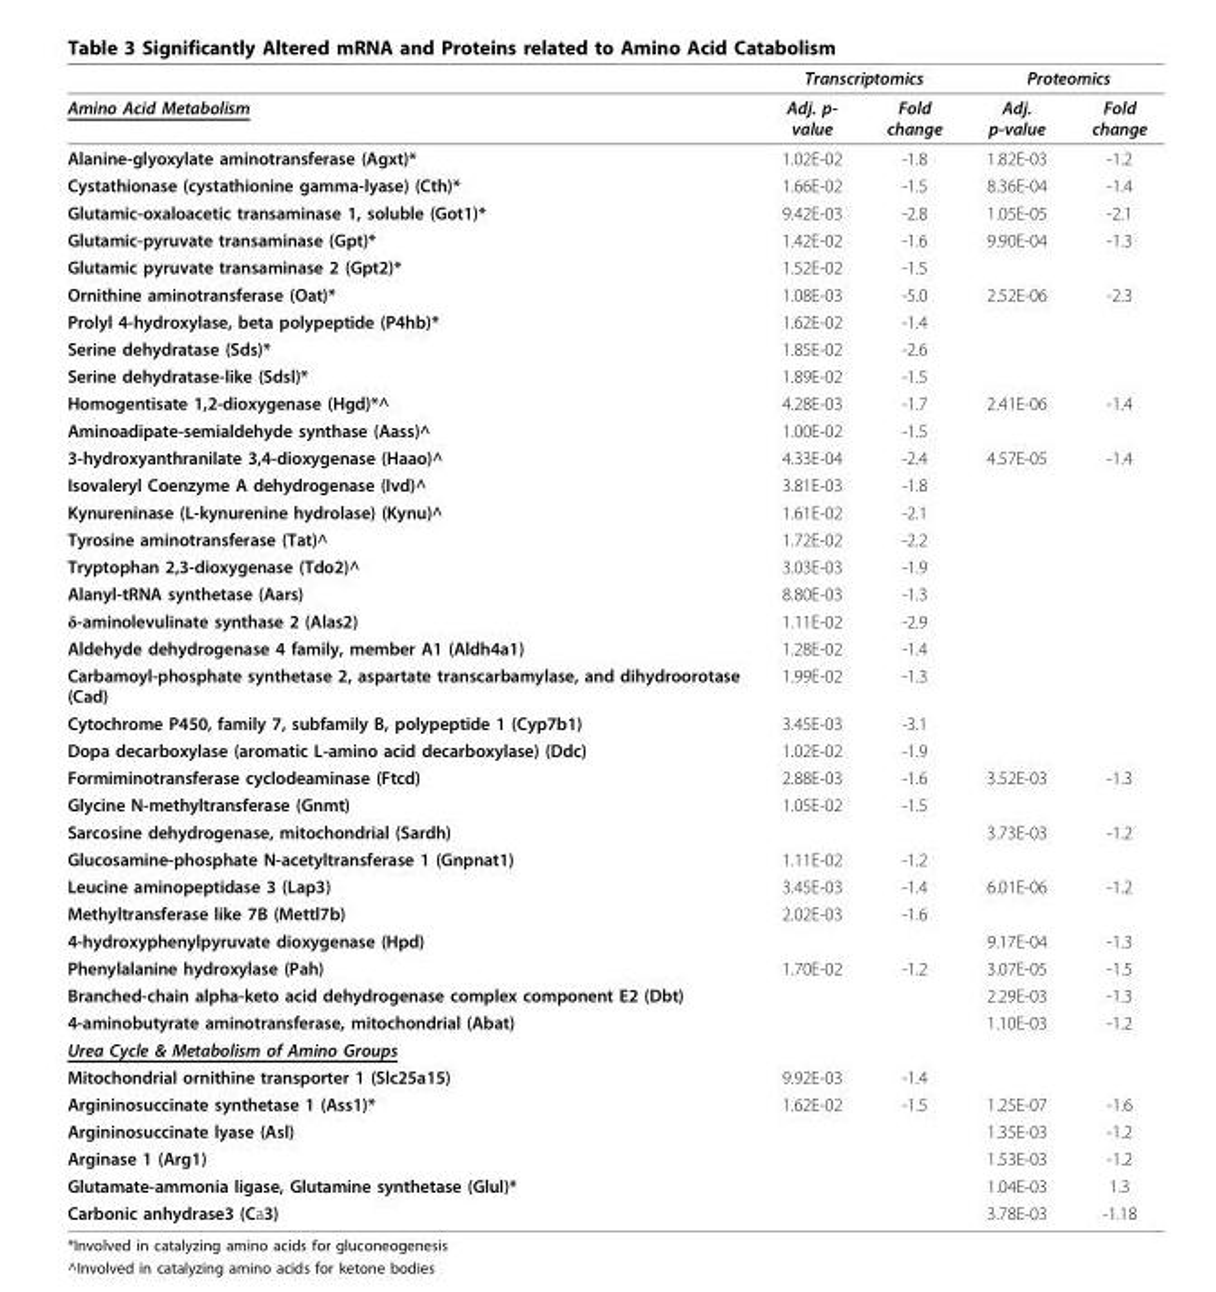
<table><thead><tr><td rowspan="2">Amino Acid Metabolism</td><td colspan="2">Transcriptomics</td><td colspan="2">Proteomics</td></tr><tr><td>Adj. p- value</td><td>Fold change</td><td>Adj. p-value</td><td>Fold change</td></tr></thead><tbody><tr><td>Alanine-glyoxylate aminotransferase (Agxt)*</td><td>1.02E-02</td><td>-1.8</td><td>1.82E-03</td><td>-1.2</td></tr><tr><td>Cystathionase (cystathionine gamma-lyase) (Cth)*</td><td>1.66E-02</td><td>-1.5</td><td>8.36E-04</td><td>-1.4</td></tr><tr><td>Glutamic-oxaloacetic transaminase 1, soluble (Got1)*</td><td>9.42E-03</td><td>-2.8</td><td>1.05E-05</td><td>-2.1</td></tr><tr><td>Glutamic-pyruvate transaminase (Gpt)*</td><td>1.42E-02</td><td>-1.6</td><td>9.90E-04</td><td>-1.3</td></tr><tr><td>Glutamic pyruvate transaminase 2 (Gpt2)*</td><td>1.52E-02</td><td>-1.5</td><td></td><td></td></tr><tr><td>Ornithine aminotransferase (Oat)*</td><td>1.08E-03</td><td>-5.0</td><td>2.52E-06</td><td>-2.3</td></tr><tr><td>Prolyl 4-hydroxylase, beta polypeptide (P4hb)*</td><td>1.62E-02</td><td>-1.4</td><td></td><td></td></tr><tr><td>Serine dehydratase (Sds)*</td><td>1.85E-02</td><td>-2.6</td><td></td><td></td></tr><tr><td>Serine dehydratase-like (Sdsl)*</td><td>1.89E-02</td><td>-1.5</td><td></td><td></td></tr><tr><td>Homogentisate 1,2-dioxygenase (Hgd)*^</td><td>4.28E-03</td><td>-1.7</td><td>2.41E-06</td><td>-1.4</td></tr><tr><td>Aminoadipate-semialdehyde synthase (Aass)^</td><td>1.00E-02</td><td>-1.5</td><td></td><td></td></tr><tr><td>3-hydroxyanthranilate 3,4-dioxygenase (Haao)^</td><td>4.33E-04</td><td>-2.4</td><td>4.57E-05</td><td>-1.4</td></tr><tr><td>Isovaleryl Coenzyme A dehydrogenase (Ivd)^</td><td>3.81E-03</td><td>-1.8</td><td></td><td></td></tr><tr><td>Kynureninase (L-kynurenine hydrolase) (Kynu)^</td><td>1.61E-02</td><td>-2.1</td><td></td><td></td></tr><tr><td>Tyrosine aminotransferase (Tat)^</td><td>1.72E-02</td><td>-2.2</td><td></td><td></td></tr><tr><td>Tryptophan 2,3-dioxygenase (Tdo2)^</td><td>3.03E-03</td><td>-1.9</td><td></td><td></td></tr><tr><td>Alanyl-tRNA synthetase (Aars)</td><td>8.80E-03</td><td>-1.3</td><td></td><td></td></tr><tr><td>δ-aminolevulinate synthase 2 (Alas2)</td><td>1.11E-02</td><td>-2.9</td><td></td><td></td></tr><tr><td>Aldehyde dehydrogenase 4 family, member A1 (Aldh4a1)</td><td>1.28E-02</td><td>-1.4</td><td></td><td></td></tr><tr><td>Carbamoyl-phosphate synthetase 2, aspartate transcarbamylase, and dihydroorotase (Cad)</td><td>1.99E-02</td><td>-1.3</td><td></td><td></td></tr><tr><td>Cytochrome P450, family 7, subfamily B, polypeptide 1 (Cyp7b1)</td><td>3.45E-03</td><td>-3.1</td><td></td><td></td></tr><tr><td>Dopa decarboxylase (aromatic L-amino acid decarboxylase) (Ddc)</td><td>1.02E-02</td><td>-1.9</td><td></td><td></td></tr><tr><td>Formiminotransferase cyclodeaminase (Ftcd)</td><td>2.88E-03</td><td>-1.6</td><td>3.52E-03</td><td>-1.3</td></tr><tr><td>Glycine N-methyltransferase (Gnmt)</td><td>1.05E-02</td><td>-1.5</td><td></td><td></td></tr><tr><td>Sarcosine dehydrogenase, mitochondrial (Sardh)</td><td></td><td></td><td>3.73E-03</td><td>-1.2</td></tr><tr><td>Glucosamine-phosphate N-acetyltransferase 1 (Gnpnat1)</td><td>1.11E-02</td><td>-1.2</td><td></td><td></td></tr><tr><td>Leucine aminopeptidase 3 (Lap3)</td><td>3.45E-03</td><td>-1.4</td><td>6.01E-06</td><td>-1.2</td></tr><tr><td>Methyltransferase like 7B (Mettl7b)</td><td>2.02E-03</td><td>-1.6</td><td></td><td></td></tr><tr><td>4-hydroxyphenylpyruvate dioxygenase (Hpd)</td><td></td><td></td><td>9.17E-04</td><td>-1.3</td></tr><tr><td>Phenylalanine hydroxylase (Pah)</td><td>1.70E-02</td><td>-1.2</td><td>3.07E-05</td><td>-1.5</td></tr><tr><td>Branched-chain alpha-keto acid dehydrogenase complex component E2 (Dbt)</td><td></td><td></td><td>2.29E-03</td><td>-1.3</td></tr><tr><td>4-aminobutyrate aminotransferase, mitochondrial (Abat)</td><td></td><td></td><td>1.10E-03</td><td>-1.2</td></tr><tr><td colspan="5">Urea Cycle &amp; Metabolism of Amino Groups</td></tr><tr><td>Mitochondrial ornithine transporter 1 (Slc25a15)</td><td>9.92E-03</td><td>-1.4</td><td></td><td></td></tr><tr><td>Argininosuccinate synthetase 1 (Ass1)*</td><td>1.62E-02</td><td>-1.5</td><td>1.25E-07</td><td>-1.6</td></tr><tr><td>Argininosuccinate lyase (Asl)</td><td></td><td></td><td>1.35E-03</td><td>-1.2</td></tr><tr><td>Arginase 1 (Arg1)</td><td></td><td></td><td>1.53E-03</td><td>-1.2</td></tr><tr><td>Glutamate-ammonia ligase, Glutamine synthetase (Glul)*</td><td></td><td></td><td>1.04E-03</td><td>1.3</td></tr><tr><td>Carbonic anhydrase3 (Ca3)</td><td></td><td></td><td>3.78E-03</td><td>-1.18</td></tr></tbody></table>